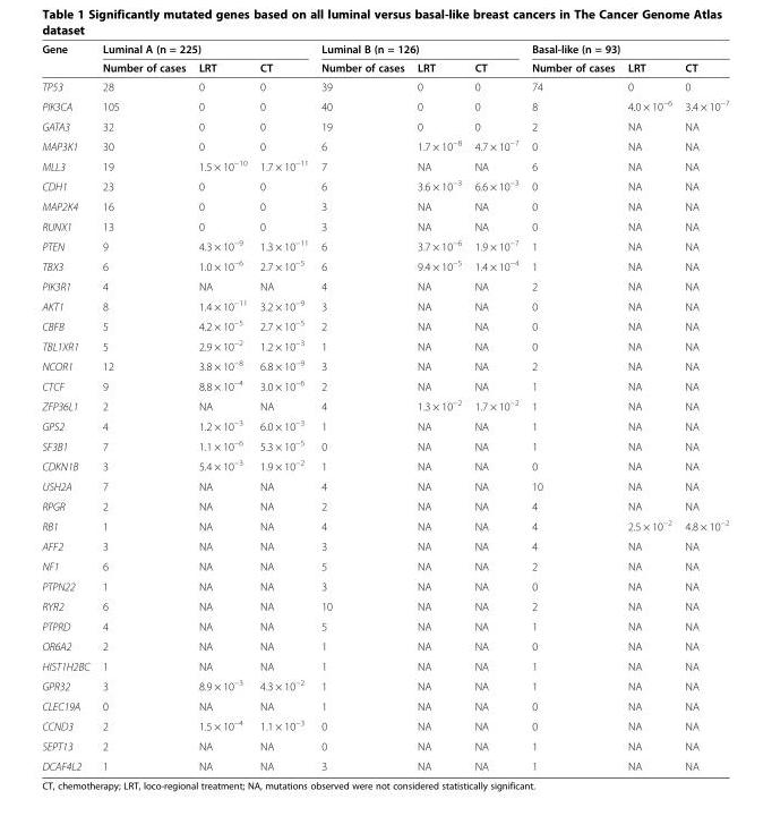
<table><thead><tr><td rowspan="2">Gene</td><td colspan="3">Luminal A (n = 225)</td><td colspan="3">Luminal B (n = 126)</td><td colspan="3">Basal-like (n = 93)</td></tr><tr><td>Number of cases</td><td>LRT</td><td>CT</td><td>Number of cases</td><td>LRT</td><td>CT</td><td>Number of cases</td><td>LRT</td><td>CT</td></tr></thead><tbody><tr><td>TP53</td><td>28</td><td>0</td><td>0</td><td>39</td><td>0</td><td>0</td><td>74</td><td>0</td><td>0</td></tr><tr><td>PIK3CA</td><td>105</td><td>0</td><td>0</td><td>40</td><td>0</td><td>0</td><td>8</td><td>4.0 × 10<sup>−6</sup></td><td>3.4 × 10<sup>−7</sup></td></tr><tr><td>GATA3</td><td>32</td><td>0</td><td>0</td><td>19</td><td>0</td><td>0</td><td>2</td><td>NA</td><td>NA</td></tr><tr><td>MAP3K1</td><td>30</td><td>0</td><td>0</td><td>6</td><td>1.7 × 10<sup>−8</sup></td><td>4.7 × 10<sup>−7</sup></td><td>0</td><td>NA</td><td>NA</td></tr><tr><td>MLL3</td><td>19</td><td>1.5 × 10<sup>−10</sup></td><td>1.7 × 10<sup>−11</sup></td><td>7</td><td>NA</td><td>NA</td><td>6</td><td>NA</td><td>NA</td></tr><tr><td>CDH1</td><td>23</td><td>0</td><td>0</td><td>6</td><td>3.6 × 10<sup>−3</sup></td><td>6.6 × 10<sup>−3</sup></td><td>0</td><td>NA</td><td>NA</td></tr><tr><td>MAP2K4</td><td>16</td><td>0</td><td>0</td><td>3</td><td>NA</td><td>NA</td><td>0</td><td>NA</td><td>NA</td></tr><tr><td>RUNX1</td><td>13</td><td>0</td><td>0</td><td>3</td><td>NA</td><td>NA</td><td>0</td><td>NA</td><td>NA</td></tr><tr><td>PTEN</td><td>9</td><td>4.3 × 10<sup>−9</sup></td><td>1.3 × 10<sup>−11</sup></td><td>6</td><td>3.7 × 10<sup>−6</sup></td><td>1.9 × 10<sup>−7</sup></td><td>1</td><td>NA</td><td>NA</td></tr><tr><td>TBX3</td><td>6</td><td>1.0 × 10<sup>−6</sup></td><td>2.7 × 10<sup>−5</sup></td><td>6</td><td>9.4 × 10<sup>−5</sup></td><td>1.4 × 10<sup>−4</sup></td><td>1</td><td>NA</td><td>NA</td></tr><tr><td>PIK3R1</td><td>4</td><td>NA</td><td>NA</td><td>4</td><td>NA</td><td>NA</td><td>2</td><td>NA</td><td>NA</td></tr><tr><td>AKT1</td><td>8</td><td>1.4 × 10<sup>−11</sup></td><td>3.2 × 10<sup>−9</sup></td><td>3</td><td>NA</td><td>NA</td><td>0</td><td>NA</td><td>NA</td></tr><tr><td>CBFB</td><td>5</td><td>4.2 × 10<sup>−5</sup></td><td>2.7 × 10<sup>−5</sup></td><td>2</td><td>NA</td><td>NA</td><td>0</td><td>NA</td><td>NA</td></tr><tr><td>TBL1XR1</td><td>5</td><td>2.9 × 10<sup>−2</sup></td><td>1.2 × 10<sup>−3</sup></td><td>1</td><td>NA</td><td>NA</td><td>0</td><td>NA</td><td>NA</td></tr><tr><td>NCOR1</td><td>12</td><td>3.8 × 10<sup>−8</sup></td><td>6.8 × 10<sup>−9</sup></td><td>3</td><td>NA</td><td>NA</td><td>2</td><td>NA</td><td>NA</td></tr><tr><td>CTCF</td><td>9</td><td>8.8 × 10<sup>−4</sup></td><td>3.0 × 10<sup>−6</sup></td><td>2</td><td>NA</td><td>NA</td><td>1</td><td>NA</td><td>NA</td></tr><tr><td>ZFP36L1</td><td>2</td><td>NA</td><td>NA</td><td>4</td><td>1.3 × 10<sup>−2</sup></td><td>1.7 × 10<sup>−2</sup></td><td>1</td><td>NA</td><td>NA</td></tr><tr><td>GPS2</td><td>4</td><td>1.2 × 10<sup>−3</sup></td><td>6.0 × 10<sup>−3</sup></td><td>1</td><td>NA</td><td>NA</td><td>1</td><td>NA</td><td>NA</td></tr><tr><td>SF3B1</td><td>7</td><td>1.1 × 10<sup>−6</sup></td><td>5.3 × 10<sup>−5</sup></td><td>0</td><td>NA</td><td>NA</td><td>1</td><td>NA</td><td>NA</td></tr><tr><td>CDKN1B</td><td>3</td><td>5.4 × 10<sup>−3</sup></td><td>1.9 × 10<sup>−2</sup></td><td>1</td><td>NA</td><td>NA</td><td>0</td><td>NA</td><td>NA</td></tr><tr><td>USH2A</td><td>7</td><td>NA</td><td>NA</td><td>4</td><td>NA</td><td>NA</td><td>10</td><td>NA</td><td>NA</td></tr><tr><td>RPGR</td><td>2</td><td>NA</td><td>NA</td><td>2</td><td>NA</td><td>NA</td><td>4</td><td>NA</td><td>NA</td></tr><tr><td>RB1</td><td>1</td><td>NA</td><td>NA</td><td>4</td><td>NA</td><td>NA</td><td>4</td><td>2.5 × 10<sup>−2</sup></td><td>4.8 × 10<sup>−2</sup></td></tr><tr><td>AFF2</td><td>3</td><td>NA</td><td>NA</td><td>3</td><td>NA</td><td>NA</td><td>4</td><td>NA</td><td>NA</td></tr><tr><td>NF1</td><td>6</td><td>NA</td><td>NA</td><td>5</td><td>NA</td><td>NA</td><td>2</td><td>NA</td><td>NA</td></tr><tr><td>PTPN22</td><td>1</td><td>NA</td><td>NA</td><td>3</td><td>NA</td><td>NA</td><td>0</td><td>NA</td><td>NA</td></tr><tr><td>RYR2</td><td>6</td><td>NA</td><td>NA</td><td>10</td><td>NA</td><td>NA</td><td>2</td><td>NA</td><td>NA</td></tr><tr><td>PTPRD</td><td>4</td><td>NA</td><td>NA</td><td>5</td><td>NA</td><td>NA</td><td>1</td><td>NA</td><td>NA</td></tr><tr><td>OR6A2</td><td>2</td><td>NA</td><td>NA</td><td>1</td><td>NA</td><td>NA</td><td>0</td><td>NA</td><td>NA</td></tr><tr><td>HIST1H2BC</td><td>1</td><td>NA</td><td>NA</td><td>1</td><td>NA</td><td>NA</td><td>1</td><td>NA</td><td>NA</td></tr><tr><td>GPR32</td><td>3</td><td>8.9 × 10<sup>−3</sup></td><td>4.3 × 10<sup>−2</sup></td><td>1</td><td>NA</td><td>NA</td><td>1</td><td>NA</td><td>NA</td></tr><tr><td>CLEC19A</td><td>0</td><td>NA</td><td>NA</td><td>1</td><td>NA</td><td>NA</td><td>0</td><td>NA</td><td>NA</td></tr><tr><td>CCND3</td><td>2</td><td>1.5 × 10<sup>−4</sup></td><td>1.1 × 10<sup>−3</sup></td><td>0</td><td>NA</td><td>NA</td><td>0</td><td>NA</td><td>NA</td></tr><tr><td>SEPT13</td><td>2</td><td>NA</td><td>NA</td><td>0</td><td>NA</td><td>NA</td><td>1</td><td>NA</td><td>NA</td></tr><tr><td>DCAF4L2</td><td>1</td><td>NA</td><td>NA</td><td>3</td><td>NA</td><td>NA</td><td>1</td><td>NA</td><td>NA</td></tr></tbody></table>